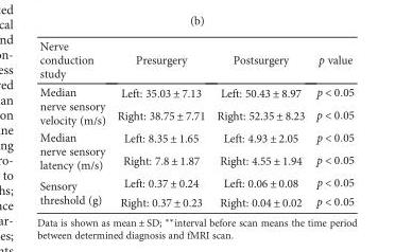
<table><thead><tr><td>Nerve conduction study</td><td>Presurgery</td><td>Postsurgery</td><td>p value</td></tr></thead><tbody><tr><td rowspan="2">Median nerve sensory velocity (m/s)</td><td>Left: 35.03 ± 7.13</td><td>Left: 50.43 ± 8.97</td><td>p &lt; 0 05</td></tr><tr><td>Right: 38.75 ± 7.71</td><td>Right: 52.35 ± 8.23</td><td>p &lt; 0 05</td></tr><tr><td rowspan="2">Median nerve sensory latency (m/s)</td><td>Left: 8.35 ± 1.65</td><td>Left: 4.93 ± 2.05</td><td>p &lt; 0 05</td></tr><tr><td>Right: 7.8 ± 1.87</td><td>Right: 4.55 ± 1.94</td><td>p &lt; 0 05</td></tr><tr><td rowspan="2">Sensory threshold (g)</td><td>Left: 0.37 ± 0.24</td><td>Left: 0.06 ± 0.08</td><td>p &lt; 0 05</td></tr><tr><td>Right: 0.37 ± 0.23</td><td>Right: 0.04 ± 0.02</td><td>p &lt; 0 05</td></tr></tbody></table>